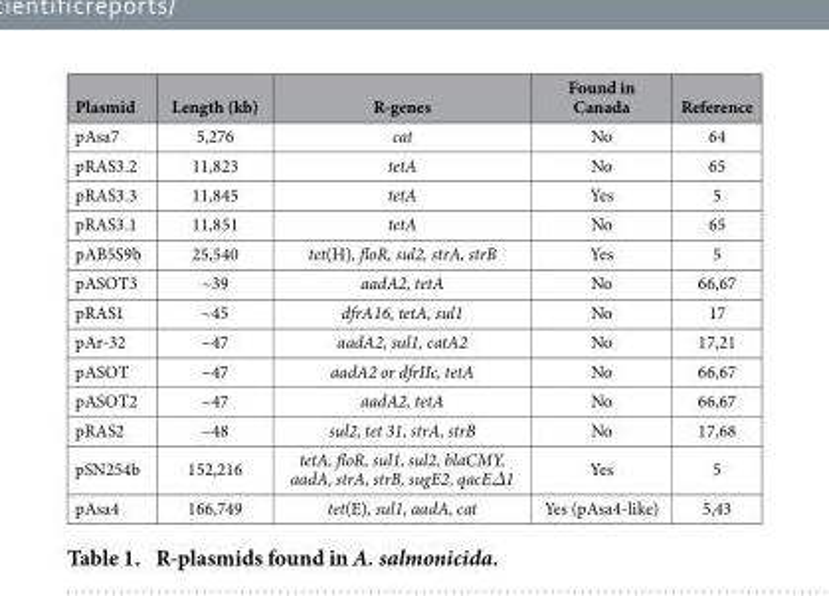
<table><thead><tr><td>Plasmid</td><td>Length (kb)</td><td>R-genes</td><td>Found in Canada</td><td>Reference</td></tr></thead><tbody><tr><td>pAsa7</td><td>5,276</td><td>cat</td><td>No</td><td>64</td></tr><tr><td>pRAS3.2</td><td>11,823</td><td>tetA</td><td>No</td><td>65</td></tr><tr><td>pRAS3.3</td><td>11,845</td><td>tetA</td><td>Yes</td><td>5</td></tr><tr><td>pRAS3.1</td><td>11,851</td><td>tetA</td><td>No</td><td>65</td></tr><tr><td>pAB5S9b</td><td>25,540</td><td>tet(H), floR, sul2, strA, strB</td><td>Yes</td><td>5</td></tr><tr><td>pASOT3</td><td>~39</td><td>aadA2, tetA</td><td>No</td><td>66,67</td></tr><tr><td>pRAS1</td><td>~45</td><td>dfrA16, tetA, sul1</td><td>No</td><td>17</td></tr><tr><td>pAr-32</td><td>~47</td><td>aadA2, sul1, catA2</td><td>No</td><td>17,21</td></tr><tr><td>pASOT</td><td>~47</td><td>aadA2 or dfrIIc, tetA</td><td>No</td><td>66,67</td></tr><tr><td>pASOT2</td><td>~47</td><td>aadA2, tetA</td><td>No</td><td>66,67</td></tr><tr><td>pRAS2</td><td>~48</td><td>sul2, tet 31, strA, strB</td><td>No</td><td>17,68</td></tr><tr><td>pSN254b</td><td>152,216</td><td>tetA, floR, sul1, sul2, blaCMY, aadA, strA, strB, sugE2, qacEΔ1</td><td>Yes</td><td>5</td></tr><tr><td>pAsa4</td><td>166,749</td><td>tet(E), sul1, aadA, cat</td><td>Yes (pAsa4-like)</td><td>5,43</td></tr></tbody></table>